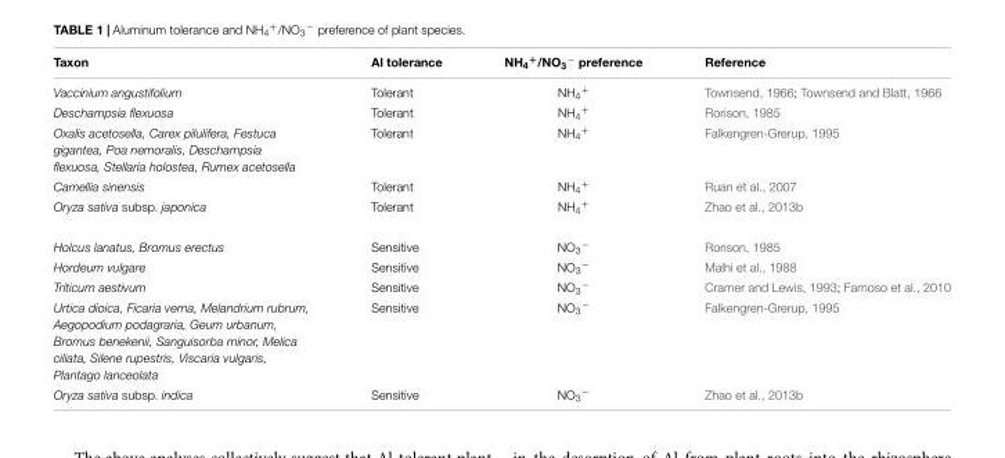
<table><thead><tr><td>Taxon</td><td>Al tolerance</td><td>NH<sub>4</sub><sup>+</sup>/NO<sub>3</sub><sup>−</sup> preference</td><td>Reference</td></tr></thead><tbody><tr><td>Vaccinium angustifolium</td><td>Tolerant</td><td>NH<sub>4</sub><sup>+</sup></td><td>Townsend, 1966; Townsend and Blatt, 1966</td></tr><tr><td>Deschampsia flexuosa</td><td>Tolerant</td><td>NH<sub>4</sub><sup>+</sup></td><td>Rorison, 1985</td></tr><tr><td>Oxalis acetosella, Carex pilulifera, Festuca gigantea, Poa nemoralis, Deschampsia flexuosa, Stellaria holostea, Rumex acetosella</td><td>Tolerant</td><td>NH<sub>4</sub><sup>+</sup></td><td>Falkengren-Grerup, 1995</td></tr><tr><td>Camellia sinensis</td><td>Tolerant</td><td>NH<sub>4</sub><sup>+</sup></td><td>Ruan et al., 2007</td></tr><tr><td>Oryza sativa subsp. japonica</td><td>Tolerant</td><td>NH<sub>4</sub><sup>+</sup></td><td>Zhao et al., 2013b</td></tr><tr><td>Holcus lanatus, Bromus erectus</td><td>Sensitive</td><td>NO<sub>3</sub><sup>−</sup></td><td>Rorison, 1985</td></tr><tr><td>Hordeum vulgare</td><td>Sensitive</td><td>NO<sub>3</sub><sup>−</sup></td><td>Malhi et al., 1988</td></tr><tr><td>Triticum aestivum</td><td>Sensitive</td><td>NO<sub>3</sub><sup>−</sup></td><td>Cramer and Lewis, 1993; Famoso et al., 2010</td></tr><tr><td>Urtica dioica, Ficaria verna, Melandrium rubrum, Aegopodium podagraria, Geum urbanum, Bromus benekenii, Sanguisorba minor, Melica ciliata, Silene rupestris, Viscaria vulgaris, Plantago lanceolata</td><td>Sensitive</td><td>NO<sub>3</sub><sup>−</sup></td><td>Falkengren-Grerup, 1995</td></tr><tr><td>Oryza sativa subsp. indica</td><td>Sensitive</td><td>NO<sub>3</sub><sup>−</sup></td><td>Zhao et al., 2013b</td></tr></tbody></table>